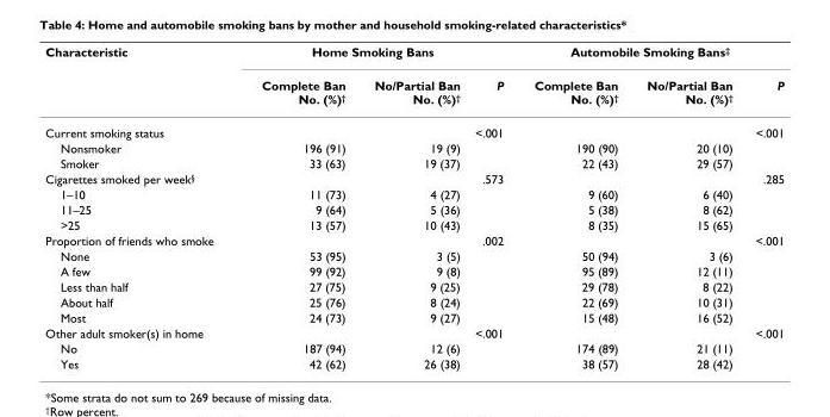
<table><thead><tr><td rowspan="2">Characteristic</td><td colspan="3">Home Smoking Bans</td><td colspan="3">Automobile Smoking Bans‡</td></tr><tr><td>Complete Ban No. (%)†</td><td>No/Partial Ban No. (%)†</td><td>P</td><td>Complete Ban No. (%)†</td><td>No/Partial Ban No. (%)†</td><td>P</td></tr></thead><tbody><tr><td>Current smoking status</td><td></td><td></td><td>&lt;.001</td><td></td><td></td><td>&lt;.001</td></tr><tr><td>Nonsmoker</td><td>196 (91)</td><td>19 (9)</td><td></td><td>190 (90)</td><td>20 (10)</td><td></td></tr><tr><td>Smoker</td><td>33 (63)</td><td>19 (37)</td><td></td><td>22 (43)</td><td>29 (57)</td><td></td></tr><tr><td>Cigarettes smoked per week§</td><td></td><td></td><td>.573</td><td></td><td></td><td>.285</td></tr><tr><td>1–10</td><td>11 (73)</td><td>4 (27)</td><td></td><td>9 (60)</td><td>6 (40)</td><td></td></tr><tr><td>11–25</td><td>9 (64)</td><td>5 (36)</td><td></td><td>5 (38)</td><td>8 (62)</td><td></td></tr><tr><td>&gt;25</td><td>13 (57)</td><td>10 (43)</td><td></td><td>8 (35)</td><td>15 (65)</td><td></td></tr><tr><td>Proportion of friends who smoke</td><td></td><td></td><td>.002</td><td></td><td></td><td>&lt;.001</td></tr><tr><td>None</td><td>53 (95)</td><td>3 (5)</td><td></td><td>50 (94)</td><td>3 (6)</td><td></td></tr><tr><td>A few</td><td>99 (92)</td><td>9 (8)</td><td></td><td>95 (89)</td><td>12 (11)</td><td></td></tr><tr><td>Less than half</td><td>27 (75)</td><td>9 (25)</td><td></td><td>29 (78)</td><td>8 (22)</td><td></td></tr><tr><td>About half</td><td>25 (76)</td><td>8 (24)</td><td></td><td>22 (69)</td><td>10 (31)</td><td></td></tr><tr><td>Most</td><td>24 (73)</td><td>9 (27)</td><td></td><td>15 (48)</td><td>16 (52)</td><td></td></tr><tr><td>Other adult smoker(s) in home</td><td></td><td></td><td>&lt;.001</td><td></td><td></td><td>&lt;.001</td></tr><tr><td>No</td><td>187 (94)</td><td>12 (6)</td><td></td><td>174 (89)</td><td>21 (11)</td><td></td></tr><tr><td>Yes</td><td>42 (62)</td><td>26 (38)</td><td></td><td>38 (57)</td><td>28 (42)</td><td></td></tr></tbody></table>